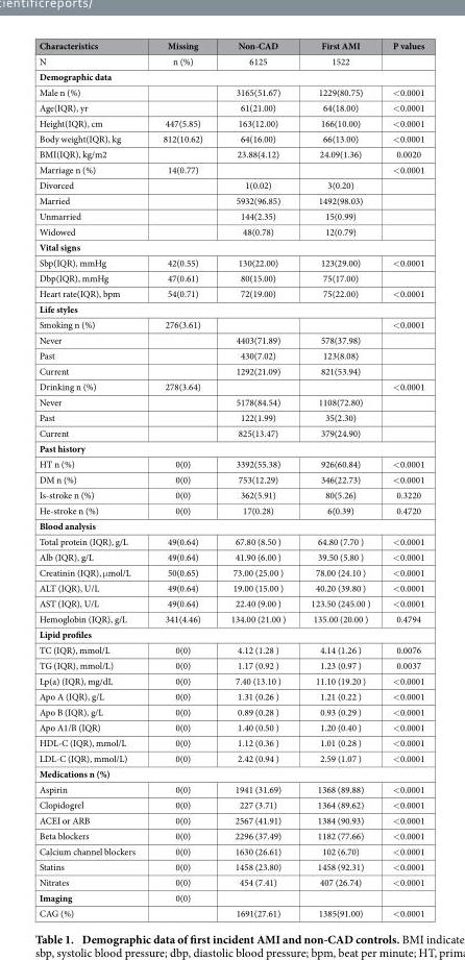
<table><thead><tr><td>Characteristics</td><td>Missing</td><td>Non-CAD</td><td>First AMI</td><td>P values</td></tr></thead><tbody><tr><td>N</td><td>n (%)</td><td>6125</td><td>1522</td><td></td></tr><tr><td colspan="5">Demographic data</td></tr><tr><td>Male n (%)</td><td></td><td>3165(51.67)</td><td>1229(80.75)</td><td>&lt; 0.0001</td></tr><tr><td>Age(IQR), yr</td><td></td><td>61(21.00)</td><td>64(18.00)</td><td>&lt; 0.0001</td></tr><tr><td>Height(IQR), cm</td><td>447(5.85)</td><td>163(12.00)</td><td>166(10.00)</td><td>&lt; 0.0001</td></tr><tr><td>Body weight(IQR), kg</td><td>812(10.62)</td><td>64(16.00)</td><td>66(13.00)</td><td>&lt; 0.0001</td></tr><tr><td>BMI(IQR), kg/m2</td><td></td><td>23.88(4.12)</td><td>24.09(1.36)</td><td>0.0020</td></tr><tr><td>Marriage n (%)</td><td>14(0.77)</td><td></td><td></td><td>&lt; 0.0001</td></tr><tr><td>Divorced</td><td></td><td>1(0.02)</td><td>3(0.20)</td><td></td></tr><tr><td>Married</td><td></td><td>5932(96.85)</td><td>1492(98.03)</td><td></td></tr><tr><td>Unmarried</td><td></td><td>144(2.35)</td><td>15(0.99)</td><td></td></tr><tr><td>Widowed</td><td></td><td>48(0.78)</td><td>12(0.79)</td><td></td></tr><tr><td colspan="5">Vital signs</td></tr><tr><td>Sbp(IQR), mmHg</td><td>42(0.55)</td><td>130(22.00)</td><td>123(29.00)</td><td>&lt; 0.0001</td></tr><tr><td>Dbp(IQR), mmHg</td><td>47(0.61)</td><td>80(15.00)</td><td>75(17.00)</td><td></td></tr><tr><td>Heart rate(IQR), bpm</td><td>54(0.71)</td><td>72(19.00)</td><td>75(22.00)</td><td>&lt; 0.0001</td></tr><tr><td colspan="5">Life styles</td></tr><tr><td>Smoking n (%)</td><td>276(3.61)</td><td></td><td></td><td>&lt; 0.0001</td></tr><tr><td>Never</td><td></td><td>4403(71.89)</td><td>578(37.98)</td><td></td></tr><tr><td>Past</td><td></td><td>430(7.02)</td><td>123(8.08)</td><td></td></tr><tr><td>Current</td><td></td><td>1292(21.09)</td><td>821(53.94)</td><td></td></tr><tr><td>Drinking n (%)</td><td>278(3.64)</td><td></td><td></td><td>&lt; 0.0001</td></tr><tr><td>Never</td><td></td><td>5178(84.54)</td><td>1108(72.80)</td><td></td></tr><tr><td>Past</td><td></td><td>122(1.99)</td><td>35(2.30)</td><td></td></tr><tr><td>Current</td><td></td><td>825(13.47)</td><td>379(24.90)</td><td></td></tr><tr><td colspan="5">Past history</td></tr><tr><td>HT n (%)</td><td>0(0)</td><td>3392(55.38)</td><td>926(60.84)</td><td>&lt; 0.0001</td></tr><tr><td>DM n (%)</td><td>0(0)</td><td>753(12.29)</td><td>346(22.73)</td><td>&lt; 0.0001</td></tr><tr><td>Is-stroke n (%)</td><td>0(0)</td><td>362(5.91)</td><td>80(5.26)</td><td>0.3220</td></tr><tr><td>He-stroke n (%)</td><td>0(0)</td><td>17(0.28)</td><td>6(0.39)</td><td>0.4720</td></tr><tr><td colspan="5">Blood analysis</td></tr><tr><td>Total protein (IQR), g/L</td><td>49(0.64)</td><td>67.80 (8.50 )</td><td>64.80 (7.70 )</td><td>&lt; 0.0001</td></tr><tr><td>Alb (IQR), g/L</td><td>49(0.64)</td><td>41.90 (6.00 )</td><td>39.50 (5.80 )</td><td>&lt; 0.0001</td></tr><tr><td>Creatinin (IQR), μ mol/L</td><td>50(0.65)</td><td>73.00 (25.00 )</td><td>78.00 (24.10 )</td><td>&lt; 0.0001</td></tr><tr><td>ALT (IQR), U/L</td><td>49(0.64)</td><td>19.00 (15.00 )</td><td>40.20 (39.80 )</td><td>&lt; 0.0001</td></tr><tr><td>AST (IQR), U/L</td><td>49(0.64)</td><td>22.40 (9.00 )</td><td>123.50 (245.00 )</td><td>&lt; 0.0001</td></tr><tr><td>Hemoglobin (IQR), g/L</td><td>341(4.46)</td><td>134.00 (21.00 )</td><td>135.00 (20.00 )</td><td>0.4794</td></tr><tr><td colspan="5">Lipid profiles</td></tr><tr><td>TC (IQR), mmol/L</td><td>0(0)</td><td>4.12 (1.28 )</td><td>4.14 (1.26 )</td><td>0.0076</td></tr><tr><td>TG (IQR), mmol/L)</td><td>0(0)</td><td>1.17 (0.92 )</td><td>1.23 (0.97 )</td><td>0.0037</td></tr><tr><td>Lp(a) (IQR), mg/dL</td><td>0(0)</td><td>7.40 (13.10 )</td><td>11.10 (19.20 )</td><td>&lt; 0.0001</td></tr><tr><td>Apo A (IQR), g/L</td><td>0(0)</td><td>1.31 (0.26 )</td><td>1.21 (0.22 )</td><td>&lt; 0.0001</td></tr><tr><td>Apo B (IQR), g/L</td><td>0(0)</td><td>0.89 (0.28 )</td><td>0.93 (0.29 )</td><td>&lt; 0.0001</td></tr><tr><td>Apo A1/B (IQR)</td><td>0(0)</td><td>1.40 (0.50 )</td><td>1.20 (0.40 )</td><td>&lt; 0.0001</td></tr><tr><td>HDL-C (IQR), mmol/L</td><td>0(0)</td><td>1.12 (0.36 )</td><td>1.01 (0.28 )</td><td>&lt; 0.0001</td></tr><tr><td>LDL-C (IQR), mmol/L)</td><td>0(0)</td><td>2.42 (0.94 )</td><td>2.59 (1.07 )</td><td>&lt; 0.0001</td></tr><tr><td colspan="5">Medications n (%)</td></tr><tr><td>Aspirin</td><td>0(0)</td><td>1941 (31.69)</td><td>1368 (89.88)</td><td>&lt; 0.0001</td></tr><tr><td>Clopidogrel</td><td>0(0)</td><td>227 (3.71)</td><td>1364 (89.62)</td><td>&lt; 0.0001</td></tr><tr><td>ACEI or ARB</td><td>0(0)</td><td>2567 (41.91)</td><td>1384 (90.93)</td><td>&lt; 0.0001</td></tr><tr><td>Beta blockers</td><td>0(0)</td><td>2296 (37.49)</td><td>1182 (77.66)</td><td>&lt; 0.0001</td></tr><tr><td>Calcium channel blockers</td><td>0(0)</td><td>1630 (26.61)</td><td>102 (6.70)</td><td>&lt; 0.0001</td></tr><tr><td>Statins</td><td>0(0)</td><td>1458 (23.80)</td><td>1458 (92.31)</td><td>&lt; 0.0001</td></tr><tr><td>Nitrates</td><td>0(0)</td><td>454 (7.41)</td><td>407 (26.74)</td><td>&lt; 0.0001</td></tr><tr><td>Imaging</td><td>0(0)</td><td></td><td></td><td></td></tr><tr><td>CAG (%)</td><td></td><td>1691(27.61)</td><td>1385(91.00)</td><td>&lt; 0.0001</td></tr></tbody></table>